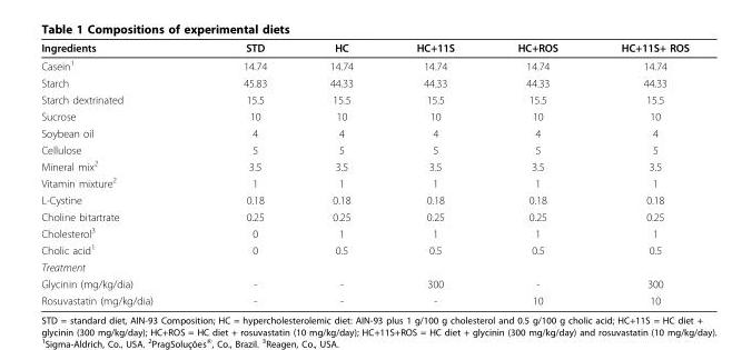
<table><thead><tr><td>Ingredients</td><td>STD</td><td>HC</td><td>HC+11S</td><td>HC+ROS</td><td>HC+11S+ ROS</td></tr></thead><tbody><tr><td>Casein<sup>1</sup></td><td>14.74</td><td>14.74</td><td>14.74</td><td>14.74</td><td>14.74</td></tr><tr><td>Starch</td><td>45.83</td><td>44.33</td><td>44.33</td><td>44.33</td><td>44.33</td></tr><tr><td>Starch dextrinated</td><td>15.5</td><td>15.5</td><td>15.5</td><td>15.5</td><td>15.5</td></tr><tr><td>Sucrose</td><td>10</td><td>10</td><td>10</td><td>10</td><td>10</td></tr><tr><td>Soybean oil</td><td>4</td><td>4</td><td>4</td><td>4</td><td>4</td></tr><tr><td>Cellulose</td><td>5</td><td>5</td><td>5</td><td>5</td><td>5</td></tr><tr><td>Mineral mix<sup>2</sup></td><td>3.5</td><td>3.5</td><td>3.5</td><td>3.5</td><td>3.5</td></tr><tr><td>Vitamin mixture<sup>2</sup></td><td>1</td><td>1</td><td>1</td><td>1</td><td>1</td></tr><tr><td>L-Cystine</td><td>0.18</td><td>0.18</td><td>0.18</td><td>0.18</td><td>0.18</td></tr><tr><td>Choline bitartrate</td><td>0.25</td><td>0.25</td><td>0.25</td><td>0.25</td><td>0.25</td></tr><tr><td>Cholesterol<sup>3</sup></td><td>0</td><td>1</td><td>1</td><td>1</td><td>1</td></tr><tr><td>Cholic acid<sup>1</sup></td><td>0</td><td>0.5</td><td>0.5</td><td>0.5</td><td>0.5</td></tr><tr><td colspan="6">Treatment</td></tr><tr><td>Glycinin (mg/kg/dia)</td><td>-</td><td>-</td><td>300</td><td>-</td><td>300</td></tr><tr><td>Rosuvastatin (mg/kg/dia)</td><td>-</td><td>-</td><td>-</td><td>10</td><td>10</td></tr></tbody></table>